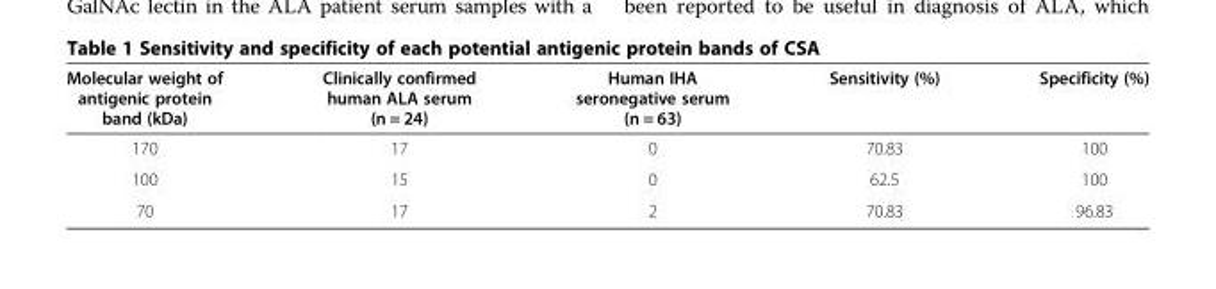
<table><thead><tr><td>Molecular weight of antigenic protein band (kDa)</td><td>Clinically confirmed human ALA serum (n = 24)</td><td>Human IHA seronegative serum (n = 63)</td><td>Sensitivity (%)</td><td>Specificity (%)</td></tr></thead><tbody><tr><td>170</td><td>17</td><td>0</td><td>70.83</td><td>100</td></tr><tr><td>100</td><td>15</td><td>0</td><td>62.5</td><td>100</td></tr><tr><td>70</td><td>17</td><td>2</td><td>70.83</td><td>96.83</td></tr></tbody></table>